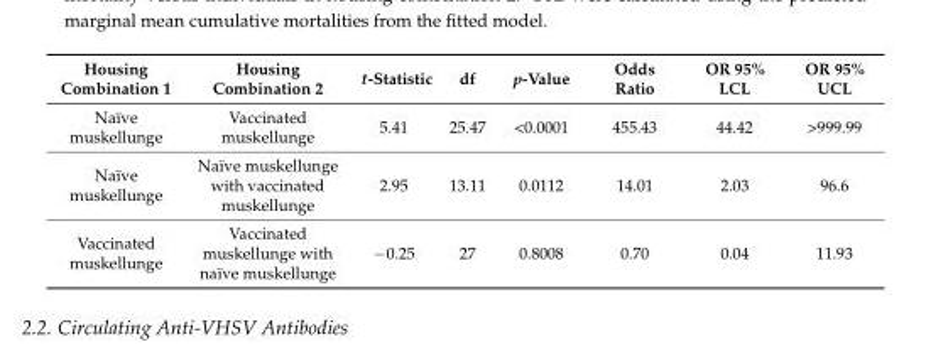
<table><thead><tr><td>Housing Combination 1</td><td>Housing Combination 2</td><td>t-Statistic</td><td>df</td><td>p-Value</td><td>Odds Ratio</td><td>OR 95% LCL</td><td>OR 95% UCL</td></tr></thead><tbody><tr><td>Naïve muskellunge</td><td>Vaccinated muskellunge</td><td>5.41</td><td>25.47</td><td>&lt;0.0001</td><td>455.43</td><td>44.42</td><td>&gt;999.99</td></tr><tr><td>Naïve muskellunge</td><td>Naïve muskellunge with vaccinated muskellunge</td><td>2.95</td><td>13.11</td><td>0.0112</td><td>14.01</td><td>2.03</td><td>96.6</td></tr><tr><td>Vaccinated muskellunge</td><td>Vaccinated muskellunge with naïve muskellunge</td><td>−0.25</td><td>27</td><td>0.8008</td><td>0.70</td><td>0.04</td><td>11.93</td></tr></tbody></table>